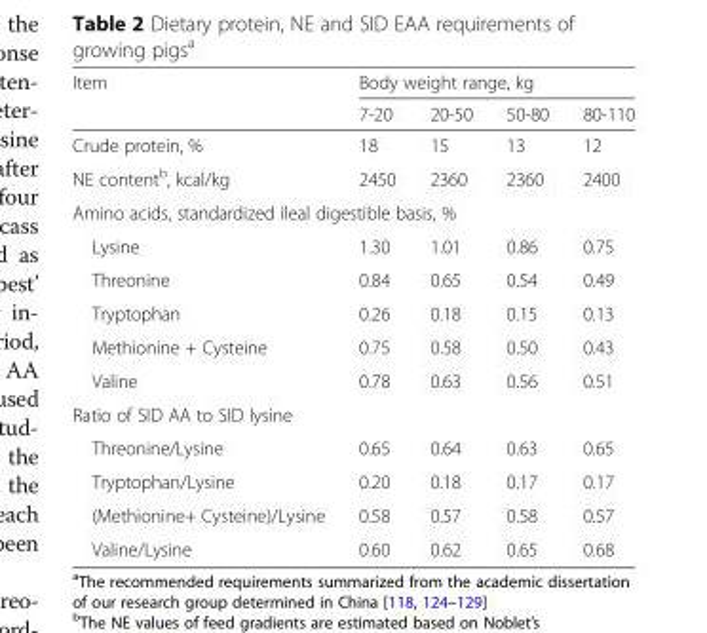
<table><thead><tr><td rowspan="2">Item</td><td colspan="4">Body weight range, kg</td></tr><tr><td>7-20</td><td>20-50</td><td>50-80</td><td>80-110</td></tr></thead><tbody><tr><td>Crude protein, %</td><td>18</td><td>15</td><td>13</td><td>12</td></tr><tr><td>NE content<sup>b</sup>, kcal/kg</td><td>2450</td><td>2360</td><td>2360</td><td>2400</td></tr><tr><td colspan="5">Amino acids, standardized ileal digestible basis, %</td></tr><tr><td>Lysine</td><td>1.30</td><td>1.01</td><td>0.86</td><td>0.75</td></tr><tr><td>Threonine</td><td>0.84</td><td>0.65</td><td>0.54</td><td>0.49</td></tr><tr><td>Tryptophan</td><td>0.26</td><td>0.18</td><td>0.15</td><td>0.13</td></tr><tr><td>Methionine + Cysteine</td><td>0.75</td><td>0.58</td><td>0.50</td><td>0.43</td></tr><tr><td>Valine</td><td>0.78</td><td>0.63</td><td>0.56</td><td>0.51</td></tr><tr><td colspan="5">Ratio of SID AA to SID lysine</td></tr><tr><td>Threonine/Lysine</td><td>0.65</td><td>0.64</td><td>0.63</td><td>0.65</td></tr><tr><td>Tryptophan/Lysine</td><td>0.20</td><td>0.18</td><td>0.17</td><td>0.17</td></tr><tr><td>(Methionine+ Cysteine)/Lysine</td><td>0.58</td><td>0.57</td><td>0.58</td><td>0.57</td></tr><tr><td>Valine/Lysine</td><td>0.60</td><td>0.62</td><td>0.65</td><td>0.68</td></tr></tbody></table>